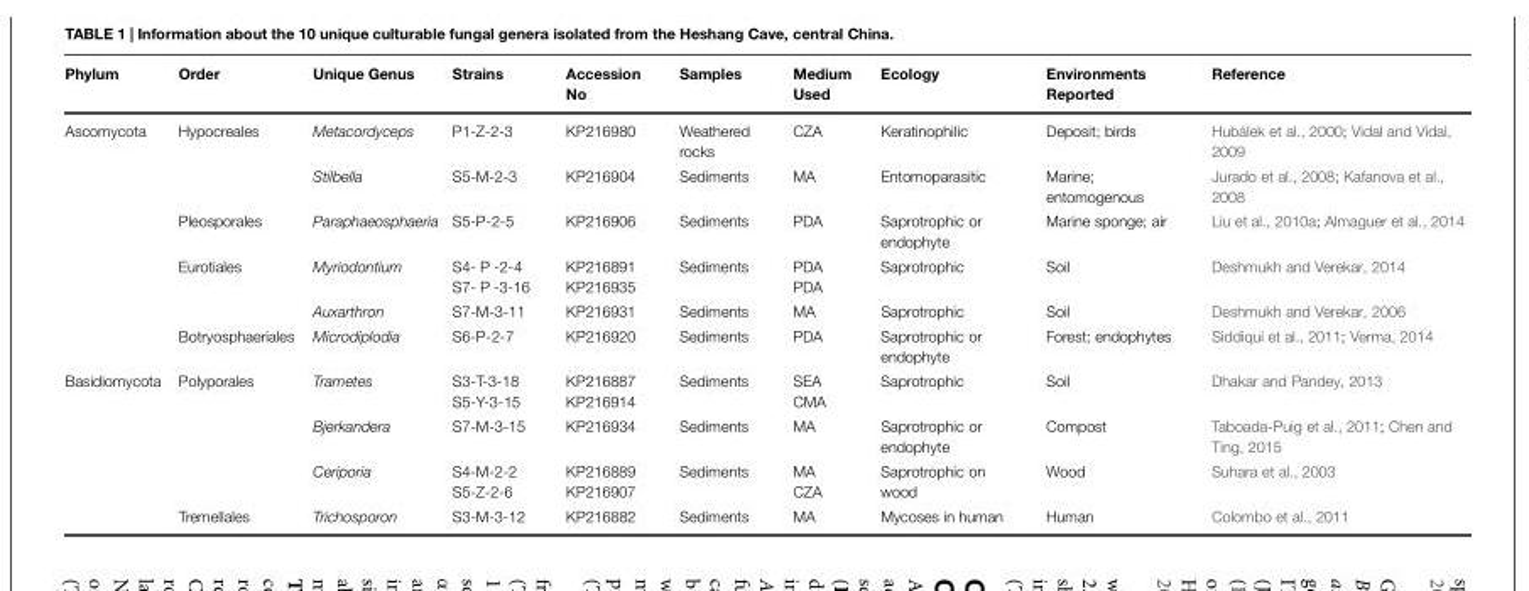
<table><thead><tr><td>Phylum</td><td>Order</td><td>Unique Genus</td><td>Strains</td><td>Accession No</td><td>Samples</td><td>Medium Used</td><td>Ecology</td><td>Environments Reported</td><td>Reference</td></tr></thead><tbody><tr><td rowspan="6">Ascomycota</td><td>Hypocreales</td><td>Metacordyceps</td><td>P1-Z-2-3</td><td>KP216980</td><td>Weathered rocks</td><td>CZA</td><td>Keratinophilic</td><td>Deposit; birds</td><td>Hubálek et al., 2000; Vidal and Vidal, 2009</td></tr><tr><td></td><td>Stilbella</td><td>S5-M-2-3</td><td>KP216904</td><td>Sediments</td><td>MA</td><td>Entomoparasitic</td><td>Marine; entomogenous</td><td>Jurado et al., 2008; Kafanova et al., 2008</td></tr><tr><td>Pleosporales</td><td>Paraphaeosphaeria</td><td>S5-P-2-5</td><td>KP216906</td><td>Sediments</td><td>PDA</td><td>Saprotrophic or endophyte</td><td>Marine sponge; air</td><td>Liu et al., 2010a; Almaguer et al., 2014</td></tr><tr><td>Eurotiales</td><td>Myriodontium</td><td>S4- P -2-4 S7- P -3-16</td><td>KP216891 KP216935</td><td>Sediments</td><td>PDA PDA</td><td>Saprotrophic</td><td>Soil</td><td>Deshmukh and Verekar, 2014</td></tr><tr><td></td><td>Auxarthron</td><td>S7-M-3-11</td><td>KP216931</td><td>Sediments</td><td>MA</td><td>Saprotrophic</td><td>Soil</td><td>Deshmukh and Verekar, 2006</td></tr><tr><td>Botryosphaeriales</td><td>Microdiplodia</td><td>S6-P-2-7</td><td>KP216920</td><td>Sediments</td><td>PDA</td><td>Saprotrophic or endophyte</td><td>Forest; endophytes</td><td>Siddiqui et al., 2011; Verma, 2014</td></tr><tr><td rowspan="4">Basidiomycota</td><td>Polyporales</td><td>Trametes</td><td>S3-T-3-18 S5-Y-3-15</td><td>KP216887 KP216914</td><td>Sediments</td><td>SEA CMA</td><td>Saprotrophic</td><td>Soil</td><td>Dhakar and Pandey, 2013</td></tr><tr><td></td><td>Bjerkandera</td><td>S7-M-3-15</td><td>KP216934</td><td>Sediments</td><td>MA</td><td>Saprotrophic or endophyte</td><td>Compost</td><td>Taboada-Puig et al., 2011; Chen and Ting, 2015</td></tr><tr><td></td><td>Ceriporia</td><td>S4-M-2-2 S5-Z-2-6</td><td>KP216889 KP216907</td><td>Sediments</td><td>MA CZA</td><td>Saprotrophic on wood</td><td>Wood</td><td>Suhara et al., 2003</td></tr><tr><td>Tremellales</td><td>Trichosporon</td><td>S3-M-3-12</td><td>KP216882</td><td>Sediments</td><td>MA</td><td>Mycoses in human</td><td>Human</td><td>Colombo et al., 2011</td></tr></tbody></table>